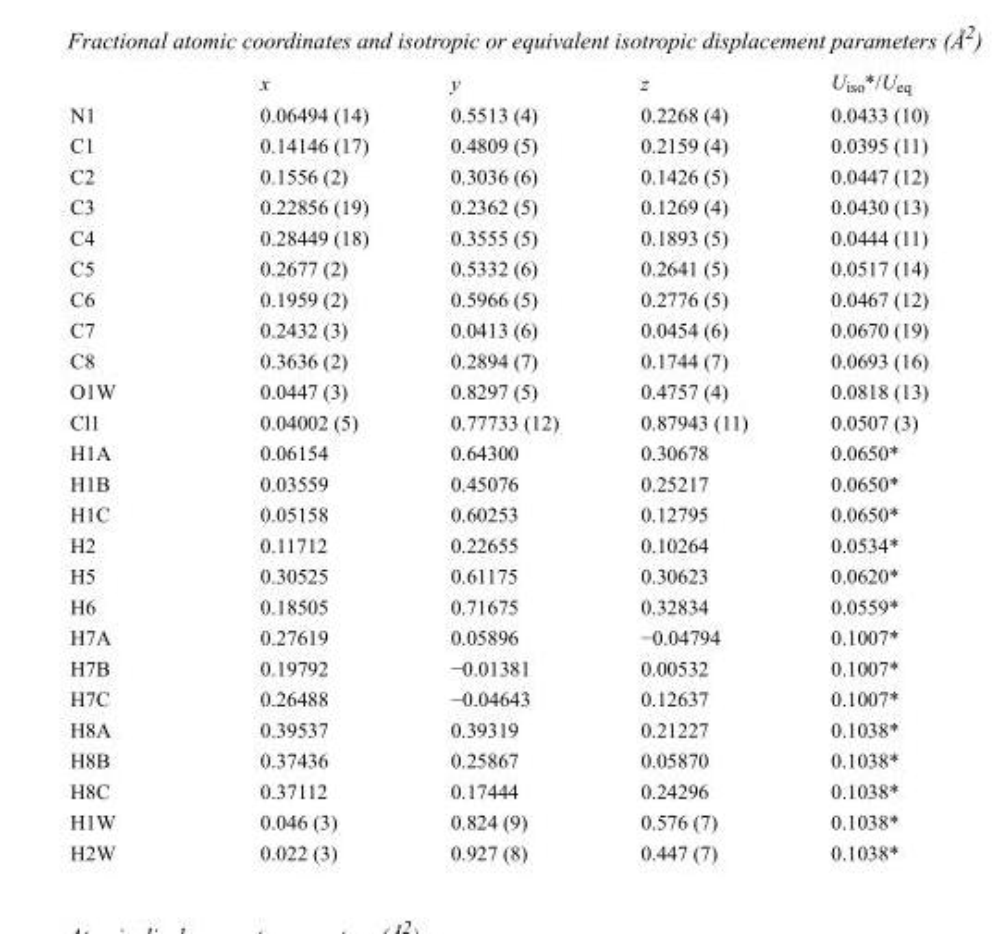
<table><thead><tr><td></td><td>x</td><td>y</td><td>z</td><td>U<sub>iso</sub>*/U<sub>eq</sub></td></tr></thead><tbody><tr><td>N1</td><td>0.06494 (14)</td><td>0.5513 (4)</td><td>0.2268 (4)</td><td>0.0433 (10)</td></tr><tr><td>C1</td><td>0.14146 (17)</td><td>0.4809 (5)</td><td>0.2159 (4)</td><td>0.0395 (11)</td></tr><tr><td>C2</td><td>0.1556 (2)</td><td>0.3036 (6)</td><td>0.1426 (5)</td><td>0.0447 (12)</td></tr><tr><td>C3</td><td>0.22856 (19)</td><td>0.2362 (5)</td><td>0.1269 (4)</td><td>0.0430 (13)</td></tr><tr><td>C4</td><td>0.28449 (18)</td><td>0.3555 (5)</td><td>0.1893 (5)</td><td>0.0444 (11)</td></tr><tr><td>C5</td><td>0.2677 (2)</td><td>0.5332 (6)</td><td>0.2641 (5)</td><td>0.0517 (14)</td></tr><tr><td>C6</td><td>0.1959 (2)</td><td>0.5966 (5)</td><td>0.2776 (5)</td><td>0.0467 (12)</td></tr><tr><td>C7</td><td>0.2432 (3)</td><td>0.0413 (6)</td><td>0.0454 (6)</td><td>0.0670 (19)</td></tr><tr><td>C8</td><td>0.3636 (2)</td><td>0.2894 (7)</td><td>0.1744 (7)</td><td>0.0693 (16)</td></tr><tr><td>O1W</td><td>0.0447 (3)</td><td>0.8297 (5)</td><td>0.4757 (4)</td><td>0.0818 (13)</td></tr><tr><td>Cl1</td><td>0.04002 (5)</td><td>0.77733 (12)</td><td>0.87943 (11)</td><td>0.0507 (3)</td></tr><tr><td>H1A</td><td>0.06154</td><td>0.64300</td><td>0.30678</td><td>0.0650*</td></tr><tr><td>H1B</td><td>0.03559</td><td>0.45076</td><td>0.25217</td><td>0.0650*</td></tr><tr><td>H1C</td><td>0.05158</td><td>0.60253</td><td>0.12795</td><td>0.0650*</td></tr><tr><td>H2</td><td>0.11712</td><td>0.22655</td><td>0.10264</td><td>0.0534*</td></tr><tr><td>H5</td><td>0.30525</td><td>0.61175</td><td>0.30623</td><td>0.0620*</td></tr><tr><td>H6</td><td>0.18505</td><td>0.71675</td><td>0.32834</td><td>0.0559*</td></tr><tr><td>H7A</td><td>0.27619</td><td>0.05896</td><td>−0.04794</td><td>0.1007*</td></tr><tr><td>H7B</td><td>0.19792</td><td>−0.01381</td><td>0.00532</td><td>0.1007*</td></tr><tr><td>H7C</td><td>0.26488</td><td>−0.04643</td><td>0.12637</td><td>0.1007*</td></tr><tr><td>H8A</td><td>0.39537</td><td>0.39319</td><td>0.21227</td><td>0.1038*</td></tr><tr><td>H8B</td><td>0.37436</td><td>0.25867</td><td>0.05870</td><td>0.1038*</td></tr><tr><td>H8C</td><td>0.37112</td><td>0.17444</td><td>0.24296</td><td>0.1038*</td></tr><tr><td>H1W</td><td>0.046 (3)</td><td>0.824 (9)</td><td>0.576 (7)</td><td>0.1038*</td></tr><tr><td>H2W</td><td>0.022 (3)</td><td>0.927 (8)</td><td>0.447 (7)</td><td>0.1038*</td></tr></tbody></table>